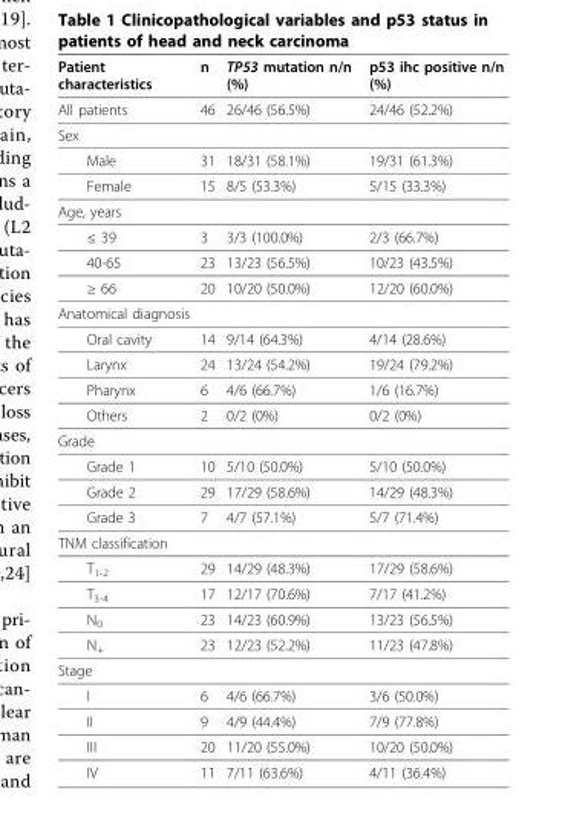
<table><thead><tr><td>Patient characteristics</td><td>n</td><td>TP53 mutation n/n (%)</td><td>p53 ihc positive n/n (%)</td></tr></thead><tbody><tr><td>All patients</td><td>46</td><td>26/46 (56.5%)</td><td>24/46 (52.2%)</td></tr><tr><td colspan="4">Sex</td></tr><tr><td>Male</td><td>31</td><td>18/31 (58.1%)</td><td>19/31 (61.3%)</td></tr><tr><td>Female</td><td>15</td><td>8/5 (53.3%)</td><td>5/15 (33.3%)</td></tr><tr><td colspan="4">Age, years</td></tr><tr><td>≤ 39</td><td>3</td><td>3/3 (100.0%)</td><td>2/3 (66.7%)</td></tr><tr><td>40-65</td><td>23</td><td>13/23 (56.5%)</td><td>10/23 (43.5%)</td></tr><tr><td>≥ 66</td><td>20</td><td>10/20 (50.0%)</td><td>12/20 (60.0%)</td></tr><tr><td colspan="4">Anatomical diagnosis</td></tr><tr><td>Oral cavity</td><td>14</td><td>9/14 (64.3%)</td><td>4/14 (28.6%)</td></tr><tr><td>Larynx</td><td>24</td><td>13/24 (54.2%)</td><td>19/24 (79.2%)</td></tr><tr><td>Pharynx</td><td>6</td><td>4/6 (66.7%)</td><td>1/6 (16.7%)</td></tr><tr><td>Others</td><td>2</td><td>0/2 (0%)</td><td>0/2 (0%)</td></tr><tr><td colspan="4">Grade</td></tr><tr><td>Grade 1</td><td>10</td><td>5/10 (50.0%)</td><td>5/10 (50.0%)</td></tr><tr><td>Grade 2</td><td>29</td><td>17/29 (58.6%)</td><td>14/29 (48.3%)</td></tr><tr><td>Grade 3</td><td>7</td><td>4/7 (57.1%)</td><td>5/7 (71.4%)</td></tr><tr><td colspan="4">TNM classification</td></tr><tr><td>T1-2</td><td>29</td><td>14/29 (48.3%)</td><td>17/29 (58.6%)</td></tr><tr><td>T3-4</td><td>17</td><td>12/17 (70.6%)</td><td>7/17 (41.2%)</td></tr><tr><td>N0</td><td>23</td><td>14/23 (60.9%)</td><td>13/23 (56.5%)</td></tr><tr><td>N+</td><td>23</td><td>12/23 (52.2%)</td><td>11/23 (47.8%)</td></tr><tr><td colspan="4">Stage</td></tr><tr><td>I</td><td>6</td><td>4/6 (66.7%)</td><td>3/6 (50.0%)</td></tr><tr><td>II</td><td>9</td><td>4/9 (44.4%)</td><td>7/9 (77.8%)</td></tr><tr><td>III</td><td>20</td><td>11/20 (55.0%)</td><td>10/20 (50.0%)</td></tr><tr><td>IV</td><td>11</td><td>7/11 (63.6%)</td><td>4/11 (36.4%)</td></tr></tbody></table>